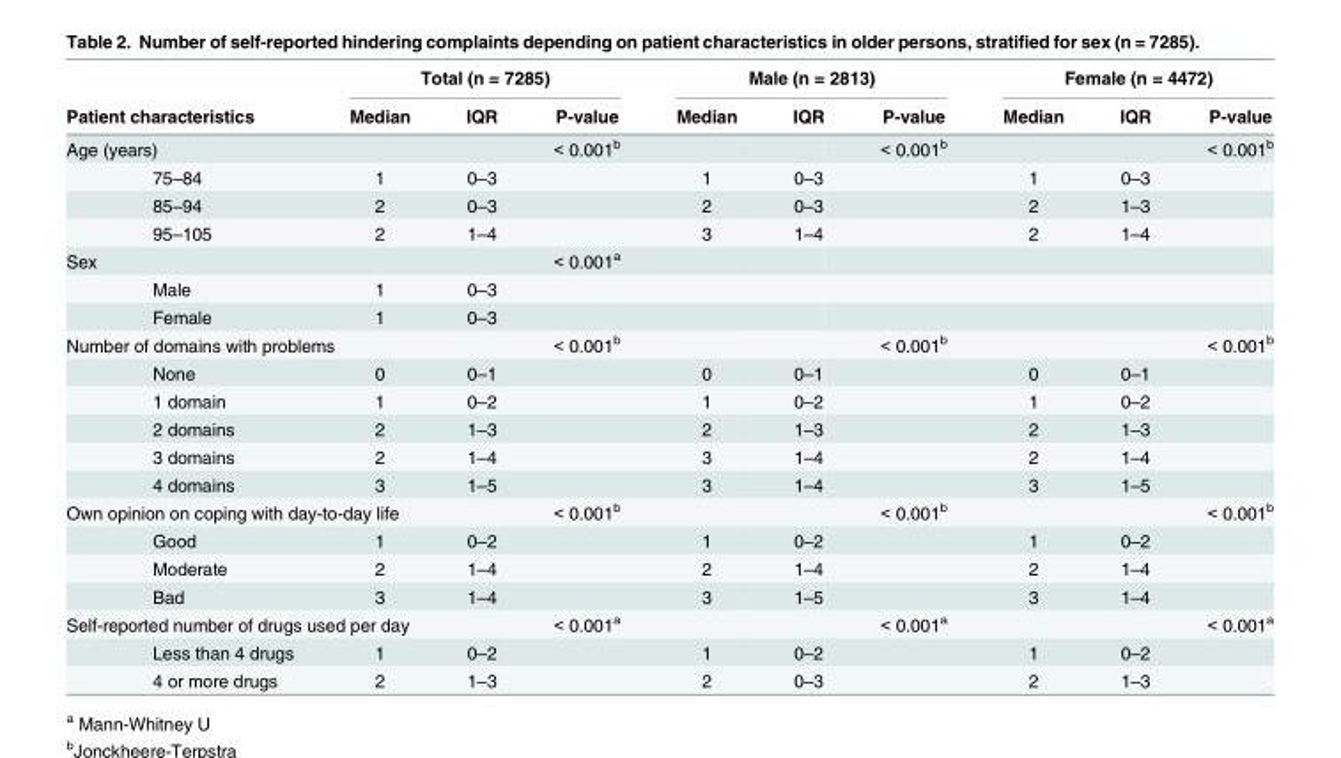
<table><thead><tr><td></td><td></td><td colspan="3">Total (n = 7285)</td><td colspan="3">Male (n = 2813)</td><td colspan="3">Female (n = 4472)</td></tr><tr><td colspan="2">Patient characteristics</td><td>Median</td><td>IQR</td><td>P-value</td><td>Median</td><td>IQR</td><td>P-value</td><td>Median</td><td>IQR</td><td>P-value</td></tr></thead><tbody><tr><td colspan="2">Age (years)</td><td></td><td></td><td>&lt; 0.001<sup>b</sup></td><td></td><td></td><td>&lt; 0.001<sup>b</sup></td><td></td><td></td><td>&lt; 0.001<sup>b</sup></td></tr><tr><td></td><td>75–84</td><td>1</td><td>0–3</td><td></td><td>1</td><td>0–3</td><td></td><td>1</td><td>0–3</td><td></td></tr><tr><td></td><td>85–94</td><td>2</td><td>0–3</td><td></td><td>2</td><td>0–3</td><td></td><td>2</td><td>1–3</td><td></td></tr><tr><td></td><td>95–105</td><td>2</td><td>1–4</td><td></td><td>3</td><td>1–4</td><td></td><td>2</td><td>1–4</td><td></td></tr><tr><td rowspan="3">Sex</td><td></td><td></td><td></td><td>&lt; 0.001<sup>a</sup></td><td></td><td></td><td></td><td></td><td></td><td></td></tr><tr><td>Male</td><td>1</td><td>0–3</td><td></td><td></td><td></td><td></td><td></td><td></td><td></td></tr><tr><td>Female</td><td>1</td><td>0–3</td><td></td><td></td><td></td><td></td><td></td><td></td><td></td></tr><tr><td colspan="3">Number of domains with problems</td><td></td><td>&lt; 0.001<sup>b</sup></td><td></td><td></td><td>&lt; 0.001<sup>b</sup></td><td></td><td></td><td>&lt; 0.001<sup>b</sup></td></tr><tr><td></td><td>None</td><td>0</td><td>0–1</td><td></td><td>0</td><td>0–1</td><td></td><td>0</td><td>0–1</td><td></td></tr><tr><td></td><td>1 domain</td><td>1</td><td>0–2</td><td></td><td>1</td><td>0–2</td><td></td><td>1</td><td>0–2</td><td></td></tr><tr><td></td><td>2 domains</td><td>2</td><td>1–3</td><td></td><td>2</td><td>1–3</td><td></td><td>2</td><td>1–3</td><td></td></tr><tr><td></td><td>3 domains</td><td>2</td><td>1–4</td><td></td><td>3</td><td>1–4</td><td></td><td>2</td><td>1–4</td><td></td></tr><tr><td></td><td>4 domains</td><td>3</td><td>1–5</td><td></td><td>3</td><td>1–4</td><td></td><td>3</td><td>1–5</td><td></td></tr><tr><td colspan="4">Own opinion on coping with day-to-day life</td><td>&lt; 0.001<sup>b</sup></td><td></td><td></td><td>&lt; 0.001<sup>b</sup></td><td></td><td></td><td>&lt; 0.001<sup>b</sup></td></tr><tr><td></td><td>Good</td><td>1</td><td>0–2</td><td></td><td>1</td><td>0–2</td><td></td><td>1</td><td>0–2</td><td></td></tr><tr><td></td><td>Moderate</td><td>2</td><td>1–4</td><td></td><td>2</td><td>1–4</td><td></td><td>2</td><td>1–4</td><td></td></tr><tr><td></td><td>Bad</td><td>3</td><td>1–4</td><td></td><td>3</td><td>1–5</td><td></td><td>3</td><td>1–4</td><td></td></tr><tr><td colspan="3">Self-reported number of drugs used per day</td><td></td><td>&lt; 0.001<sup>a</sup></td><td></td><td></td><td>&lt; 0.001<sup>a</sup></td><td></td><td></td><td>&lt; 0.001<sup>a</sup></td></tr><tr><td></td><td>Less than 4 drugs</td><td>1</td><td>0–2</td><td></td><td>1</td><td>0–2</td><td></td><td>1</td><td>0–2</td><td></td></tr><tr><td></td><td>4 or more drugs</td><td>2</td><td>1–3</td><td></td><td>2</td><td>0–3</td><td></td><td>2</td><td>1–3</td><td></td></tr></tbody></table>